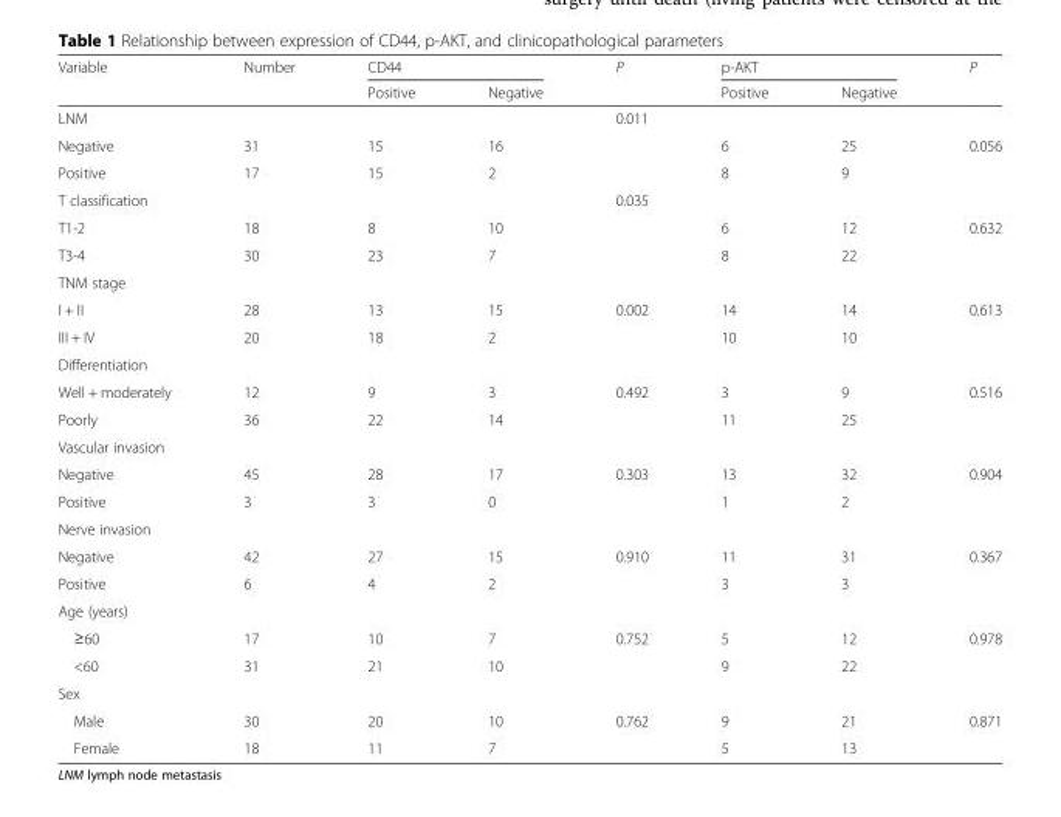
<table><thead><tr><td rowspan="2">Variable</td><td rowspan="2">Number</td><td colspan="2">CD44</td><td rowspan="2">P</td><td colspan="2">p-AKT</td><td rowspan="2">P</td></tr><tr><td>Positive</td><td>Negative</td><td>Positive</td><td>Negative</td></tr></thead><tbody><tr><td>LNM</td><td></td><td></td><td></td><td>0.011</td><td></td><td></td><td></td></tr><tr><td>Negative</td><td>31</td><td>15</td><td>16</td><td></td><td>6</td><td>25</td><td>0.056</td></tr><tr><td>Positive</td><td>17</td><td>15</td><td>2</td><td></td><td>8</td><td>9</td><td></td></tr><tr><td>T classification</td><td></td><td></td><td></td><td>0.035</td><td></td><td></td><td></td></tr><tr><td>T1-2</td><td>18</td><td>8</td><td>10</td><td></td><td>6</td><td>12</td><td>0.632</td></tr><tr><td>T3-4</td><td>30</td><td>23</td><td>7</td><td></td><td>8</td><td>22</td><td></td></tr><tr><td colspan="8">TNM stage</td></tr><tr><td>I + II</td><td>28</td><td>13</td><td>15</td><td>0.002</td><td>14</td><td>14</td><td>0.613</td></tr><tr><td>III + IV</td><td>20</td><td>18</td><td>2</td><td></td><td>10</td><td>10</td><td></td></tr><tr><td colspan="8">Differentiation</td></tr><tr><td>Well + moderately</td><td>12</td><td>9</td><td>3</td><td>0.492</td><td>3</td><td>9</td><td>0.516</td></tr><tr><td>Poorly</td><td>36</td><td>22</td><td>14</td><td></td><td>11</td><td>25</td><td></td></tr><tr><td colspan="8">Vascular invasion</td></tr><tr><td>Negative</td><td>45</td><td>28</td><td>17</td><td>0.303</td><td>13</td><td>32</td><td>0.904</td></tr><tr><td>Positive</td><td>3</td><td>3</td><td>0</td><td></td><td>1</td><td>2</td><td></td></tr><tr><td colspan="8">Nerve invasion</td></tr><tr><td>Negative</td><td>42</td><td>27</td><td>15</td><td>0.910</td><td>11</td><td>31</td><td>0.367</td></tr><tr><td>Positive</td><td>6</td><td>4</td><td>2</td><td></td><td>3</td><td>3</td><td></td></tr><tr><td colspan="8">Age (years)</td></tr><tr><td>≥60</td><td>17</td><td>10</td><td>7</td><td>0.752</td><td>5</td><td>12</td><td>0.978</td></tr><tr><td>&lt;60</td><td>31</td><td>21</td><td>10</td><td></td><td>9</td><td>22</td><td></td></tr><tr><td colspan="8">Sex</td></tr><tr><td>Male</td><td>30</td><td>20</td><td>10</td><td>0.762</td><td>9</td><td>21</td><td>0.871</td></tr><tr><td>Female</td><td>18</td><td>11</td><td>7</td><td></td><td>5</td><td>13</td><td></td></tr></tbody></table>